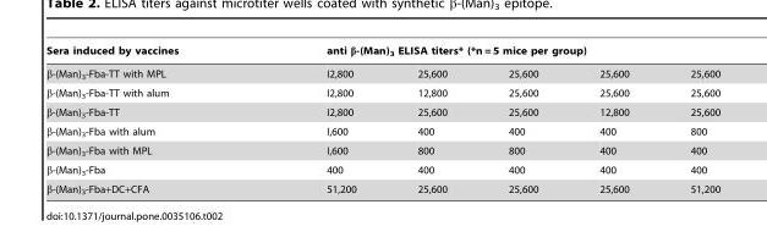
<table><thead><tr><td rowspan="2">Sera induced by vaccines β-(Man)<sub>3</sub>-Fba-TT with MPL</td><td colspan="5">anti β-(Man)<sub>3</sub> ELISA titers* (*n = 5 mice per group)</td></tr><tr><td>I2,800</td><td>25,600</td><td>25,600</td><td>25,600</td><td>25,600</td></tr></thead><tbody><tr><td>β-(Man)<sub>3</sub>-Fba-TT with alum</td><td>I2,800</td><td>12,800</td><td>25,600</td><td>25,600</td><td>25,600</td></tr><tr><td>β-(Man)<sub>3</sub>-Fba-TT</td><td>I2,800</td><td>25,600</td><td>25,600</td><td>12,800</td><td>25,600</td></tr><tr><td>β-(Man)<sub>3</sub>-Fba with alum</td><td>I,600</td><td>400</td><td>400</td><td>400</td><td>800</td></tr><tr><td>β-(Man)<sub>3</sub>-Fba with MPL</td><td>I,600</td><td>800</td><td>800</td><td>400</td><td>400</td></tr><tr><td>β-(Man)<sub>3</sub>-Fba</td><td>400</td><td>400</td><td>400</td><td>400</td><td>400</td></tr><tr><td>β-(Man)<sub>3</sub>-Fba+DC+CFA</td><td>51,200</td><td>25,600</td><td>25,600</td><td>25,600</td><td>51,200</td></tr></tbody></table>